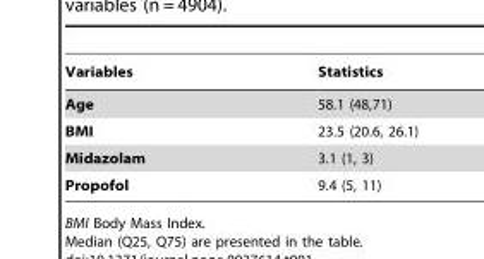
<table><thead><tr><td>Variables</td><td>Statistics</td></tr></thead><tbody><tr><td>Age</td><td>58.1 (48,71)</td></tr><tr><td>BMI</td><td>23.5 (20.6, 26.1)</td></tr><tr><td>Midazolam</td><td>3.1 (1, 3)</td></tr><tr><td>Propofol</td><td>9.4 (5, 11)</td></tr></tbody></table>